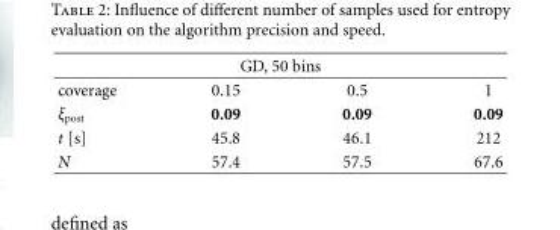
<table><thead><tr><td colspan="4">GD, 50 bins</td></tr><tr><td>coverage</td><td>0.15</td><td>0.5</td><td>1</td></tr></thead><tbody><tr><td>ξ<sub>post</sub></td><td>0.09</td><td>0.09</td><td>0.09</td></tr><tr><td>t [s]</td><td>45.8</td><td>46.1</td><td>212</td></tr><tr><td>N</td><td>57.4</td><td>57.5</td><td>67.6</td></tr></tbody></table>